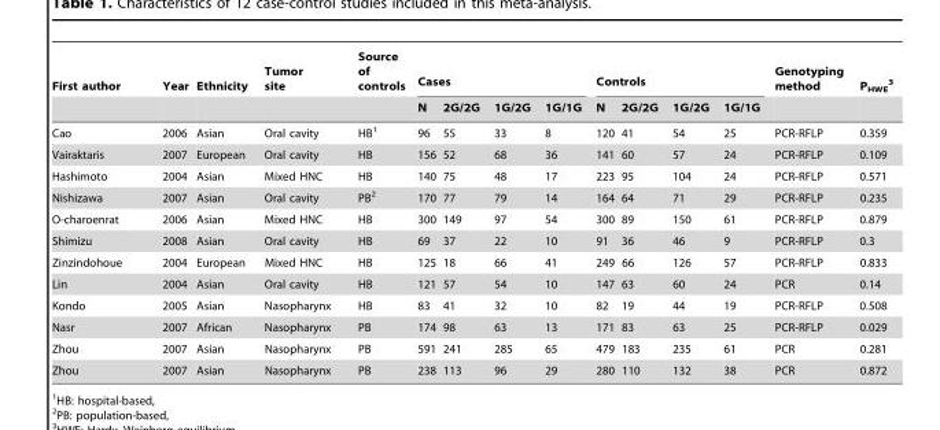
<table><thead><tr><td rowspan="2">First author</td><td rowspan="2">Year</td><td rowspan="2">Ethnicity</td><td rowspan="2">Tumor site</td><td rowspan="2">Source of controls</td><td colspan="4">Cases</td><td colspan="4">Controls</td><td rowspan="2">Genotyping method</td><td rowspan="2">PHWE</td></tr><tr><td>N</td><td>2G/2G</td><td>1G/2G</td><td>1G/1G</td><td>N</td><td>2G/2G</td><td>1G/2G</td><td>1G/1G</td></tr></thead><tbody><tr><td>Cao</td><td>2006</td><td>Asian</td><td>Oral cavity</td><td>HB<sup>1</sup></td><td>96</td><td>55</td><td>33</td><td>8</td><td>120</td><td>41</td><td>54</td><td>25</td><td>PCR-RFLP</td><td>0.359</td></tr><tr><td>Vairaktaris</td><td>2007</td><td>European</td><td>Oral cavity</td><td>HB</td><td>156</td><td>52</td><td>68</td><td>36</td><td>141</td><td>60</td><td>57</td><td>24</td><td>PCR-RFLP</td><td>0.109</td></tr><tr><td>Hashimoto</td><td>2004</td><td>Asian</td><td>Mixed HNC</td><td>HB</td><td>140</td><td>75</td><td>48</td><td>17</td><td>223</td><td>95</td><td>104</td><td>24</td><td>PCR-RFLP</td><td>0.571</td></tr><tr><td>Nishizawa</td><td>2007</td><td>Asian</td><td>Oral cavity</td><td>PB<sup>2</sup></td><td>170</td><td>77</td><td>79</td><td>14</td><td>164</td><td>64</td><td>71</td><td>29</td><td>PCR-RFLP</td><td>0.235</td></tr><tr><td>O-charoenrat</td><td>2006</td><td>Asian</td><td>Mixed HNC</td><td>HB</td><td>300</td><td>149</td><td>97</td><td>54</td><td>300</td><td>89</td><td>150</td><td>61</td><td>PCR-RFLP</td><td>0.879</td></tr><tr><td>Shimizu</td><td>2008</td><td>Asian</td><td>Oral cavity</td><td>HB</td><td>69</td><td>37</td><td>22</td><td>10</td><td>91</td><td>36</td><td>46</td><td>9</td><td>PCR-RFLP</td><td>0.3</td></tr><tr><td>Zinzindohoue</td><td>2004</td><td>European</td><td>Mixed HNC</td><td>HB</td><td>125</td><td>18</td><td>66</td><td>41</td><td>249</td><td>66</td><td>126</td><td>57</td><td>PCR-RFLP</td><td>0.833</td></tr><tr><td>Lin</td><td>2004</td><td>Asian</td><td>Oral cavity</td><td>HB</td><td>121</td><td>57</td><td>54</td><td>10</td><td>147</td><td>63</td><td>60</td><td>24</td><td>PCR</td><td>0.14</td></tr><tr><td>Kondo</td><td>2005</td><td>Asian</td><td>Nasopharynx</td><td>HB</td><td>83</td><td>41</td><td>32</td><td>10</td><td>82</td><td>19</td><td>44</td><td>19</td><td>PCR-RFLP</td><td>0.508</td></tr><tr><td>Nasr</td><td>2007</td><td>African</td><td>Nasopharynx</td><td>PB</td><td>174</td><td>98</td><td>63</td><td>13</td><td>171</td><td>83</td><td>63</td><td>25</td><td>PCR-RFLP</td><td>0.029</td></tr><tr><td>Zhou</td><td>2007</td><td>Asian</td><td>Nasopharynx</td><td>PB</td><td>591</td><td>241</td><td>285</td><td>65</td><td>479</td><td>183</td><td>235</td><td>61</td><td>PCR</td><td>0.281</td></tr><tr><td>Zhou</td><td>2007</td><td>Asian</td><td>Nasopharynx</td><td>PB</td><td>238</td><td>113</td><td>96</td><td>29</td><td>280</td><td>110</td><td>132</td><td>38</td><td>PCR</td><td>0.872</td></tr></tbody></table>